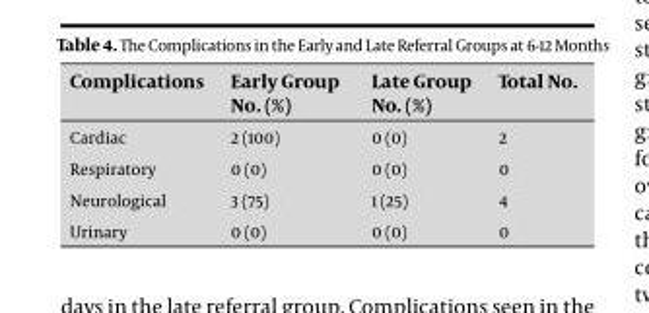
<table><thead><tr><td>Complications</td><td>Early Group No. (%)</td><td>Late Group No. (%)</td><td>Total No.</td></tr></thead><tbody><tr><td>Cardiac</td><td>2 (100)</td><td>0 (0)</td><td>2</td></tr><tr><td>Respiratory</td><td>0 (0)</td><td>0 (0)</td><td>0</td></tr><tr><td>Neurological</td><td>3 (75)</td><td>1 (25)</td><td>4</td></tr><tr><td>Urinary</td><td>0 (0)</td><td>0 (0)</td><td>0</td></tr></tbody></table>